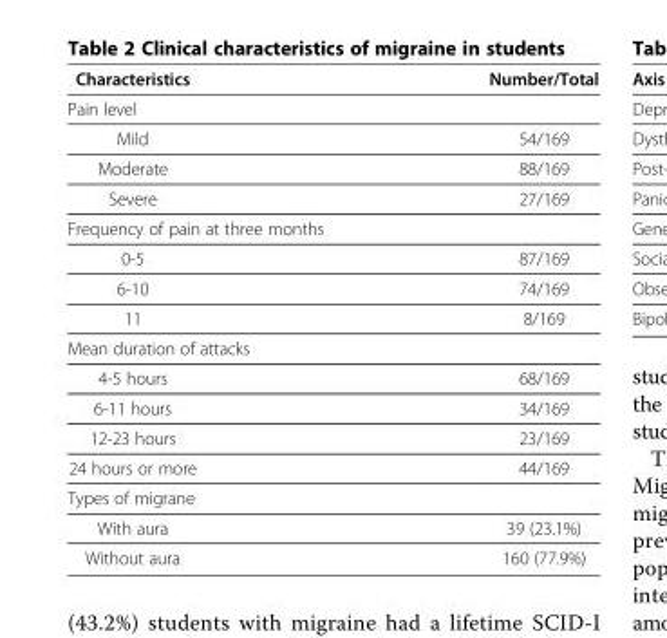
<table><thead><tr><td>Characteristics</td><td>Number/Total</td></tr></thead><tbody><tr><td colspan="2">Pain level</td></tr><tr><td>Mild</td><td>54/169</td></tr><tr><td>Moderate</td><td>88/169</td></tr><tr><td>Severe</td><td>27/169</td></tr><tr><td colspan="2">Frequency of pain at three months</td></tr><tr><td>0-5</td><td>87/169</td></tr><tr><td>6-10</td><td>74/169</td></tr><tr><td>11</td><td>8/169</td></tr><tr><td colspan="2">Mean duration of attacks</td></tr><tr><td>4-5 hours</td><td>68/169</td></tr><tr><td>6-11 hours</td><td>34/169</td></tr><tr><td>12-23 hours</td><td>23/169</td></tr><tr><td>24 hours or more</td><td>44/169</td></tr><tr><td colspan="2">Types of migrane</td></tr><tr><td>With aura</td><td>39 (23.1%)</td></tr><tr><td>Without aura</td><td>160 (77.9%)</td></tr></tbody></table>